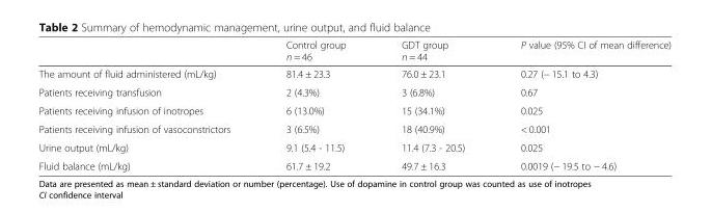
<table><thead><tr><td></td><td>Control group n = 46</td><td>GDT group n = 44</td><td>P value (95% CI of mean difference)</td></tr></thead><tbody><tr><td>The amount of fluid administered (mL/kg)</td><td>81.4 ± 23.3</td><td>76.0 ± 23.1</td><td>0.27 (− 15.1 to 4.3)</td></tr><tr><td>Patients receiving transfusion</td><td>2 (4.3%)</td><td>3 (6.8%)</td><td>0.67</td></tr><tr><td>Patients receiving infusion of inotropes</td><td>6 (13.0%)</td><td>15 (34.1%)</td><td>0.025</td></tr><tr><td>Patients receiving infusion of vasoconstrictors</td><td>3 (6.5%)</td><td>18 (40.9%)</td><td>&lt; 0.001</td></tr><tr><td>Urine output (mL/kg)</td><td>9.1 (5.4 - 11.5)</td><td>11.4 (7.3 - 20.5)</td><td>0.025</td></tr><tr><td>Fluid balance (mL/kg)</td><td>61.7 ± 19.2</td><td>49.7 ± 16.3</td><td>0.0019 (− 19.5 to − 4.6)</td></tr></tbody></table>